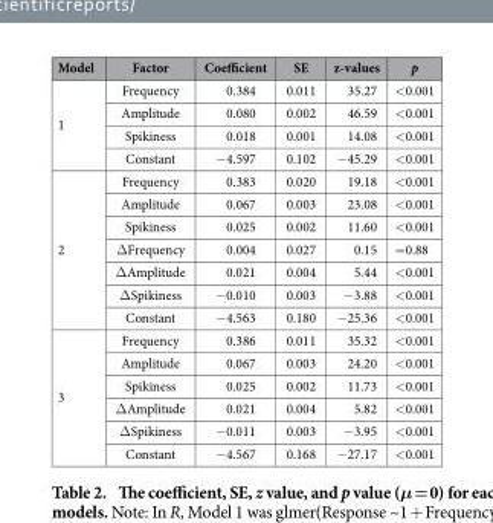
<table><thead><tr><td>Model</td><td>Factor</td><td>Coefficient</td><td>SE</td><td>z-values</td><td>p</td></tr></thead><tbody><tr><td rowspan="4">1</td><td>Frequency</td><td>0.384</td><td>0.011</td><td>35.27</td><td>&lt; 0.001</td></tr><tr><td>Amplitude</td><td>0.080</td><td>0.002</td><td>46.59</td><td>&lt; 0.001</td></tr><tr><td>Spikiness</td><td>0.018</td><td>0.001</td><td>14.08</td><td>&lt; 0.001</td></tr><tr><td>Constant</td><td>− 4.597</td><td>0.102</td><td>− 45.29</td><td>&lt; 0.001</td></tr><tr><td rowspan="7">2</td><td>Frequency</td><td>0.383</td><td>0.020</td><td>19.18</td><td>&lt; 0.001</td></tr><tr><td>Amplitude</td><td>0.067</td><td>0.003</td><td>23.08</td><td>&lt; 0.001</td></tr><tr><td>Spikiness</td><td>0.025</td><td>0.002</td><td>11.60</td><td>&lt; 0.001</td></tr><tr><td>Δ Frequency</td><td>0.004</td><td>0.027</td><td>0.15</td><td>= 0.88</td></tr><tr><td>Δ Amplitude</td><td>0.021</td><td>0.004</td><td>5.44</td><td>&lt; 0.001</td></tr><tr><td>Δ Spikiness</td><td>− 0.010</td><td>0.003</td><td>− 3.88</td><td>&lt; 0.001</td></tr><tr><td>Constant</td><td>− 4.563</td><td>0.180</td><td>− 25.36</td><td>&lt; 0.001</td></tr><tr><td rowspan="6">3</td><td>Frequency</td><td>0.386</td><td>0.011</td><td>35.32</td><td>&lt; 0.001</td></tr><tr><td>Amplitude</td><td>0.067</td><td>0.003</td><td>24.20</td><td>&lt; 0.001</td></tr><tr><td>Spikiness</td><td>0.025</td><td>0.002</td><td>11.73</td><td>&lt; 0.001</td></tr><tr><td>Δ Amplitude</td><td>0.021</td><td>0.004</td><td>5.82</td><td>&lt; 0.001</td></tr><tr><td>Δ Spikiness</td><td>− 0.011</td><td>0.003</td><td>− 3.95</td><td>&lt; 0.001</td></tr><tr><td>Constant</td><td>− 4.567</td><td>0.168</td><td>− 27.17</td><td>&lt; 0.001</td></tr></tbody></table>